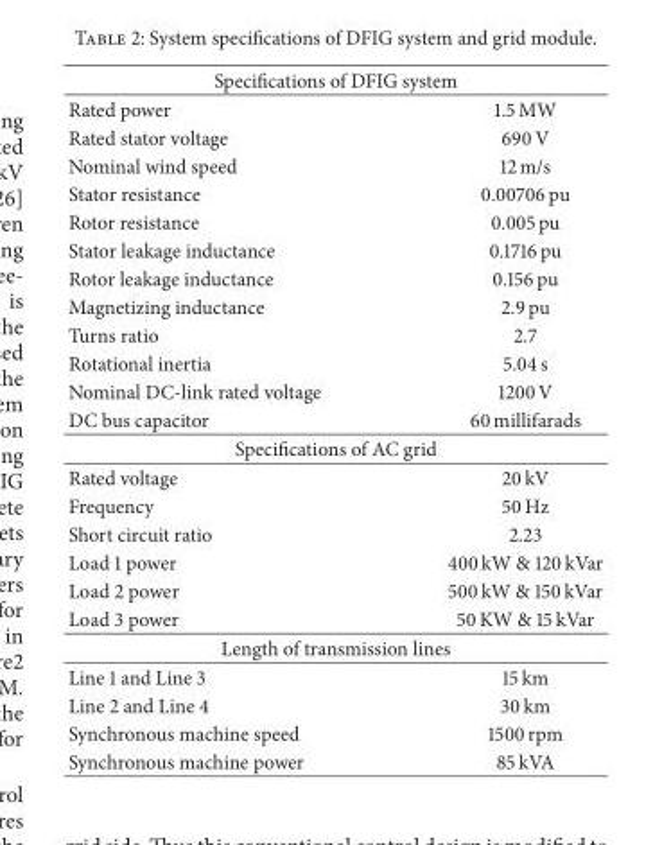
<table><thead><tr><td colspan="2">Specifications of DFIG system</td></tr><tr><td>Rated power</td><td>1.5 MW</td></tr></thead><tbody><tr><td>Rated stator voltage</td><td>690 V</td></tr><tr><td>Nominal wind speed</td><td>12 m/s</td></tr><tr><td>Stator resistance</td><td>0.00706 pu</td></tr><tr><td>Rotor resistance</td><td>0.005 pu</td></tr><tr><td>Stator leakage inductance</td><td>0.1716 pu</td></tr><tr><td>Rotor leakage inductance</td><td>0.156 pu</td></tr><tr><td>Magnetizing inductance</td><td>2.9 pu</td></tr><tr><td>Turns ratio</td><td>2.7</td></tr><tr><td>Rotational inertia</td><td>5.04 s</td></tr><tr><td>Nominal DC-link rated voltage</td><td>1200 V</td></tr><tr><td>DC bus capacitor</td><td>60 millifarads</td></tr><tr><td colspan="2">Specifications of AC grid</td></tr><tr><td>Rated voltage</td><td>20 kV</td></tr><tr><td>Frequency</td><td>50 Hz</td></tr><tr><td>Short circuit ratio</td><td>2.23</td></tr><tr><td>Load 1 power</td><td>400 kW &amp; 120 kVar</td></tr><tr><td>Load 2 power</td><td>500 kW &amp; 150 kVar</td></tr><tr><td>Load 3 power</td><td>50 KW &amp; 15 kVar</td></tr><tr><td colspan="2">Length of transmission lines</td></tr><tr><td>Line 1 and Line 3</td><td>15 km</td></tr><tr><td>Line 2 and Line 4</td><td>30 km</td></tr><tr><td>Synchronous machine speed</td><td>1500 rpm</td></tr><tr><td>Synchronous machine power</td><td>85 kVA</td></tr></tbody></table>